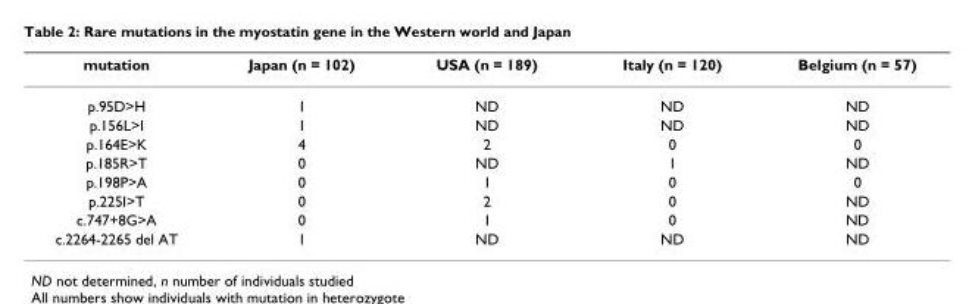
<table><thead><tr><td>mutation</td><td>Japan (n = 102)</td><td>USA (n = 189)</td><td>Italy (n = 120)</td><td>Belgium (n = 57)</td></tr></thead><tbody><tr><td>p.95D&gt;H</td><td>1</td><td>ND</td><td>ND</td><td>ND</td></tr><tr><td>p.156L&gt;I</td><td>1</td><td>ND</td><td>ND</td><td>ND</td></tr><tr><td>p.164E&gt;K</td><td>4</td><td>2</td><td>0</td><td>0</td></tr><tr><td>p.185R&gt;T</td><td>0</td><td>ND</td><td>1</td><td>ND</td></tr><tr><td>p.198P&gt;A</td><td>0</td><td>1</td><td>0</td><td>0</td></tr><tr><td>p.225I&gt;T</td><td>0</td><td>2</td><td>0</td><td>ND</td></tr><tr><td>c.747+8G&gt;A</td><td>0</td><td>1</td><td>0</td><td>ND</td></tr><tr><td>c.2264-2265 del AT</td><td>1</td><td>ND</td><td>ND</td><td>ND</td></tr></tbody></table>